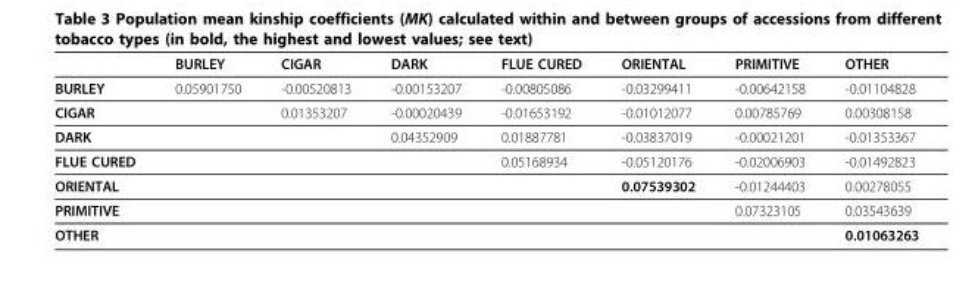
<table><thead><tr><td></td><td>BURLEY</td><td>CIGAR</td><td>DARK</td><td>FLUE CURED</td><td>ORIENTAL</td><td>PRIMITIVE</td><td>OTHER</td></tr></thead><tbody><tr><td>BURLEY</td><td>0.05901750</td><td>-0.00520813</td><td>-0.00153207</td><td>-0.00805086</td><td>-0.03299411</td><td>-0.00642158</td><td>-0.01104828</td></tr><tr><td>CIGAR</td><td></td><td>0.01353207</td><td>-0.00020439</td><td>-0.01653192</td><td>-0.01012077</td><td>0.00785769</td><td>0.00308158</td></tr><tr><td>DARK</td><td></td><td></td><td>0.04352909</td><td>0.01887781</td><td>-0.03837019</td><td>-0.00021201</td><td>-0.01353367</td></tr><tr><td>FLUE CURED</td><td></td><td></td><td></td><td>0.05168934</td><td>-0.05120176</td><td>-0.02006903</td><td>-0.01492823</td></tr><tr><td>ORIENTAL</td><td></td><td></td><td></td><td></td><td>0.07539302</td><td>-0.01244403</td><td>0.00278055</td></tr><tr><td>PRIMITIVE</td><td></td><td></td><td></td><td></td><td></td><td>0.07323105</td><td>0.03543639</td></tr><tr><td>OTHER</td><td></td><td></td><td></td><td></td><td></td><td></td><td>0.01063263</td></tr></tbody></table>